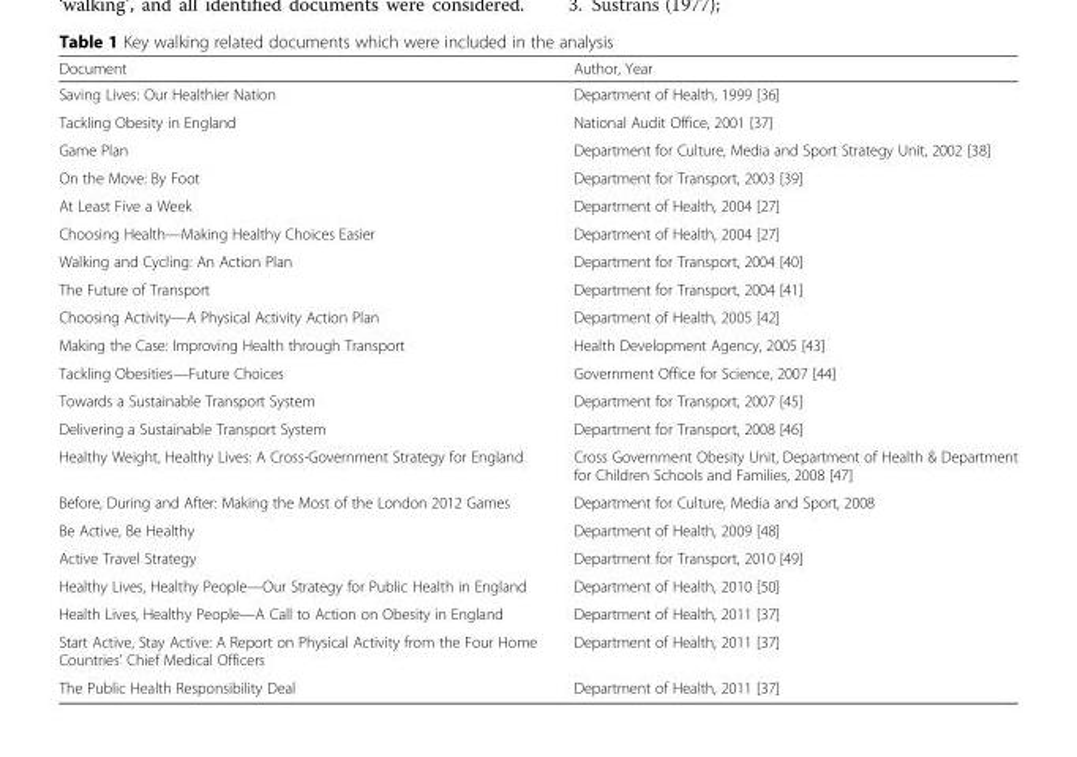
<table><thead><tr><td>Document</td><td>Author, Year</td></tr></thead><tbody><tr><td>Saving Lives: Our Healthier Nation</td><td>Department of Health, 1999 [36]</td></tr><tr><td>Tackling Obesity in England</td><td>National Audit Office, 2001 [37]</td></tr><tr><td>Game Plan</td><td>Department for Culture, Media and Sport Strategy Unit, 2002 [38]</td></tr><tr><td>On the Move: By Foot</td><td>Department for Transport, 2003 [39]</td></tr><tr><td>At Least Five a Week</td><td>Department of Health, 2004 [27]</td></tr><tr><td>Choosing Health—Making Healthy Choices Easier</td><td>Department of Health, 2004 [27]</td></tr><tr><td>Walking and Cycling: An Action Plan</td><td>Department for Transport, 2004 [40]</td></tr><tr><td>The Future of Transport</td><td>Department for Transport, 2004 [41]</td></tr><tr><td>Choosing Activity—A Physical Activity Action Plan</td><td>Department of Health, 2005 [42]</td></tr><tr><td>Making the Case: Improving Health through Transport</td><td>Health Development Agency, 2005 [43]</td></tr><tr><td>Tackling Obesities—Future Choices</td><td>Government Office for Science, 2007 [44]</td></tr><tr><td>Towards a Sustainable Transport System</td><td>Department for Transport, 2007 [45]</td></tr><tr><td>Delivering a Sustainable Transport System</td><td>Department for Transport, 2008 [46]</td></tr><tr><td>Healthy Weight, Healthy Lives: A Cross-Government Strategy for England</td><td>Cross Government Obesity Unit, Department of Health &amp; Department for Children Schools and Families, 2008 [47]</td></tr><tr><td>Before, During and After: Making the Most of the London 2012 Games</td><td>Department for Culture, Media and Sport, 2008</td></tr><tr><td>Be Active, Be Healthy</td><td>Department of Health, 2009 [48]</td></tr><tr><td>Active Travel Strategy</td><td>Department for Transport, 2010 [49]</td></tr><tr><td>Healthy Lives, Healthy People—Our Strategy for Public Health in England</td><td>Department of Health, 2010 [50]</td></tr><tr><td>Health Lives, Healthy People—A Call to Action on Obesity in England</td><td>Department of Health, 2011 [37]</td></tr><tr><td>Start Active, Stay Active: A Report on Physical Activity from the Four Home Countries’ Chief Medical Officers</td><td>Department of Health, 2011 [37]</td></tr><tr><td>The Public Health Responsibility Deal</td><td>Department of Health, 2011 [37]</td></tr></tbody></table>